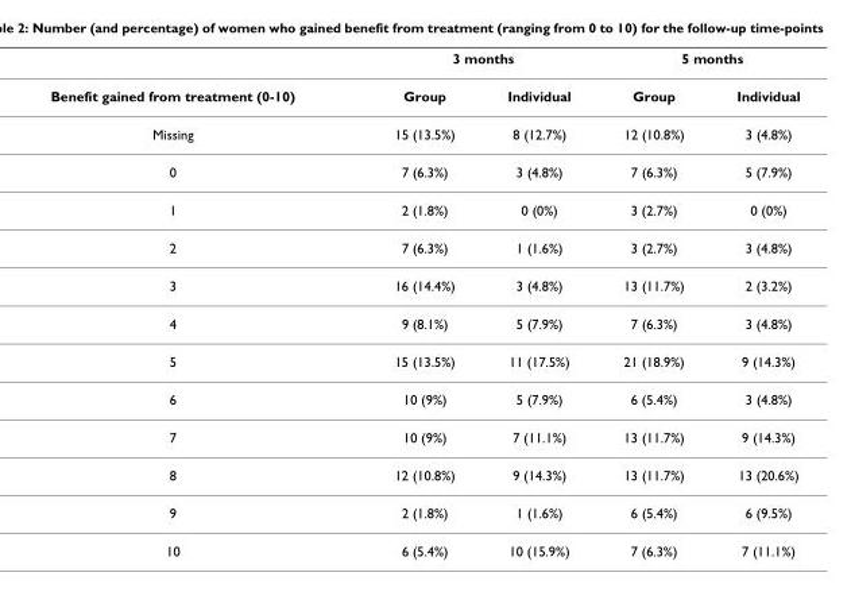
<table><thead><tr><td rowspan="2">Benefit gained from treatment (0-10)</td><td colspan="2">3 months</td><td colspan="2">5 months</td></tr><tr><td>Group</td><td>Individual</td><td>Group</td><td>Individual</td></tr></thead><tbody><tr><td>Missing</td><td>15 (13.5%)</td><td>8 (12.7%)</td><td>12 (10.8%)</td><td>3 (4.8%)</td></tr><tr><td>0</td><td>7 (6.3%)</td><td>3 (4.8%)</td><td>7 (6.3%)</td><td>5 (7.9%)</td></tr><tr><td>1</td><td>2 (1.8%)</td><td>0 (0%)</td><td>3 (2.7%)</td><td>0 (0%)</td></tr><tr><td>2</td><td>7 (6.3%)</td><td>1 (1.6%)</td><td>3 (2.7%)</td><td>3 (4.8%)</td></tr><tr><td>3</td><td>16 (14.4%)</td><td>3 (4.8%)</td><td>13 (11.7%)</td><td>2 (3.2%)</td></tr><tr><td>4</td><td>9 (8.1%)</td><td>5 (7.9%)</td><td>7 (6.3%)</td><td>3 (4.8%)</td></tr><tr><td>5</td><td>15 (13.5%)</td><td>11 (17.5%)</td><td>21 (18.9%)</td><td>9 (14.3%)</td></tr><tr><td>6</td><td>10 (9%)</td><td>5 (7.9%)</td><td>6 (5.4%)</td><td>3 (4.8%)</td></tr><tr><td>7</td><td>10 (9%)</td><td>7 (11.1%)</td><td>13 (11.7%)</td><td>9 (14.3%)</td></tr><tr><td>8</td><td>12 (10.8%)</td><td>9 (14.3%)</td><td>13 (11.7%)</td><td>13 (20.6%)</td></tr><tr><td>9</td><td>2 (1.8%)</td><td>1 (1.6%)</td><td>6 (5.4%)</td><td>6 (9.5%)</td></tr><tr><td>10</td><td>6 (5.4%)</td><td>10 (15.9%)</td><td>7 (6.3%)</td><td>7 (11.1%)</td></tr></tbody></table>